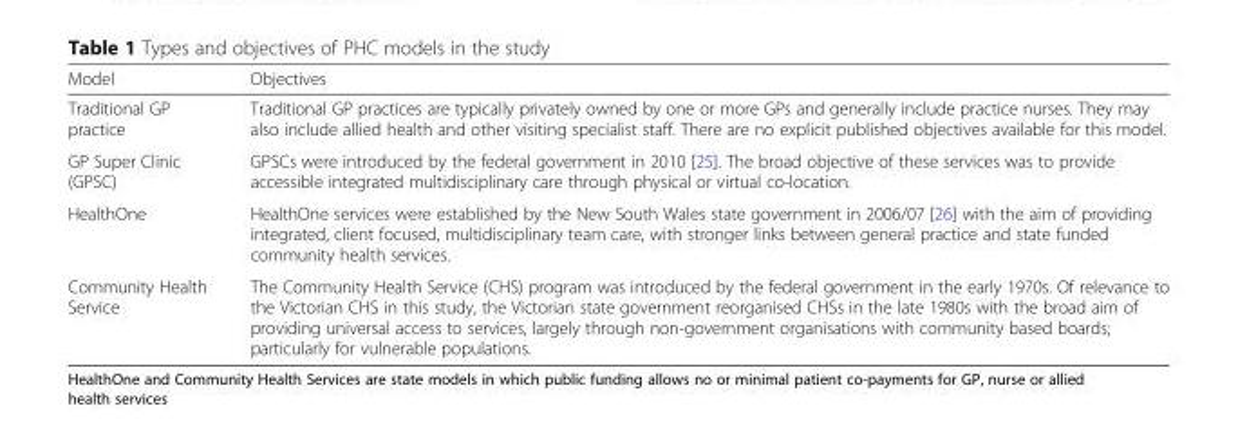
<table><thead><tr><td>Model</td><td>Objectives</td></tr></thead><tbody><tr><td>Traditional GP practice</td><td>Traditional GP practices are typically privately owned by one or more GPs and generally include practice nurses. They may also include allied health and other visiting specialist staff. There are no explicit published objectives available for this model.</td></tr><tr><td>GP Super Clinic (GPSC)</td><td>GPSCs were introduced by the federal government in 2010 [25]. The broad objective of these services was to provide accessible integrated multidisciplinary care through physical or virtual co-location.</td></tr><tr><td>HealthOne</td><td>HealthOne services were established by the New South Wales state government in 2006/07 [26] with the aim of providing integrated, client focused, multidisciplinary team care, with stronger links between general practice and state funded community health services.</td></tr><tr><td>Community Health Service</td><td>The Community Health Service (CHS) program was introduced by the federal government in the early 1970s. Of relevance to the Victorian CHS in this study, the Victorian state government reorganised CHSs in the late 1980s with the broad aim of providing universal access to services, largely through non-government organisations with community based boards; particularly for vulnerable populations.</td></tr></tbody></table>